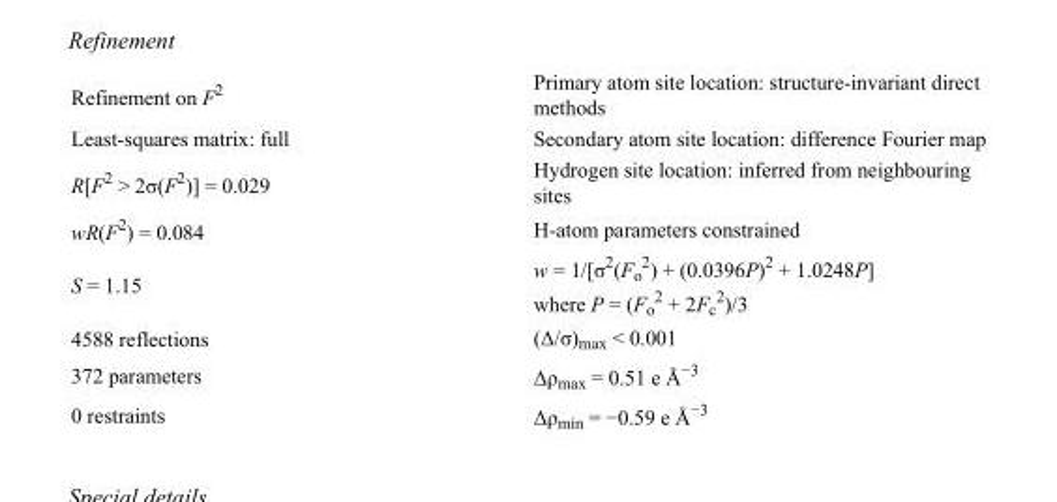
<table><tbody><tr><td>Refinement on F<sup>2</sup></td><td>Primary atom site location: structure-invariant direct methods</td></tr><tr><td>Least-squares matrix: full</td><td>Secondary atom site location: difference Fourier map</td></tr><tr><td>R[F<sup>2</sup> &gt; 2σ(F<sup>2</sup>)] = 0.029</td><td>Hydrogen site location: inferred from neighbouring sites</td></tr><tr><td>wR(F<sup>2</sup>) = 0.084</td><td>H-atom parameters constrained</td></tr><tr><td>S = 1.15</td><td>w = 1/[σ<sup>2</sup>(F<sub>o</sub> <sup>2</sup>) + (0.0396P)<sup>2</sup> + 1.0248P] where P = (F<sub>o</sub> <sup>2</sup> + 2F<sub>c</sub> <sup>2</sup>)/3</td></tr><tr><td>4588 reflections</td><td>(Δ/σ)<sub>max</sub> &lt; 0.001</td></tr><tr><td>372 parameters</td><td>Δρ<sub>max</sub> = 0.51 e Å<sup>−3</sup></td></tr><tr><td>0 restraints</td><td>Δρ<sub>min</sub> = −0.59 e Å<sup>−3</sup></td></tr></tbody></table>